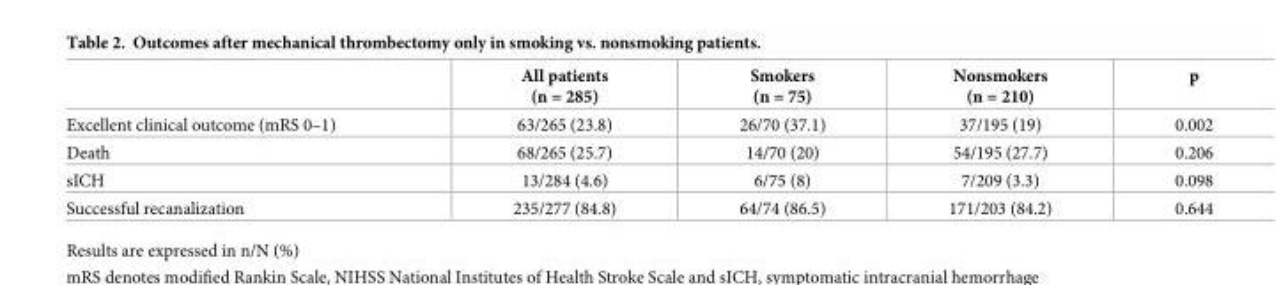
<table><thead><tr><td></td><td>All patients (n = 285)</td><td>Smokers (n = 75)</td><td>Nonsmokers (n = 210)</td><td>p</td></tr></thead><tbody><tr><td>Excellent clinical outcome (mRS 0–1)</td><td>63/265 (23.8)</td><td>26/70 (37.1)</td><td>37/195 (19)</td><td>0.002</td></tr><tr><td>Death</td><td>68/265 (25.7)</td><td>14/70 (20)</td><td>54/195 (27.7)</td><td>0.206</td></tr><tr><td>sICH</td><td>13/284 (4.6)</td><td>6/75 (8)</td><td>7/209 (3.3)</td><td>0.098</td></tr><tr><td>Successful recanalization</td><td>235/277 (84.8)</td><td>64/74 (86.5)</td><td>171/203 (84.2)</td><td>0.644</td></tr></tbody></table>